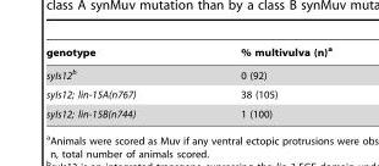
<table><thead><tr><td>genotype</td><td>% multivulva (n)<sup>a</sup></td></tr></thead><tbody><tr><td>syIs12b</td><td>0 (92)</td></tr><tr><td>syIs12; lin-15A(n767)</td><td>38 (105)</td></tr><tr><td>syIs12; lin-15B(n744)</td><td>1 (100)</td></tr></tbody></table>